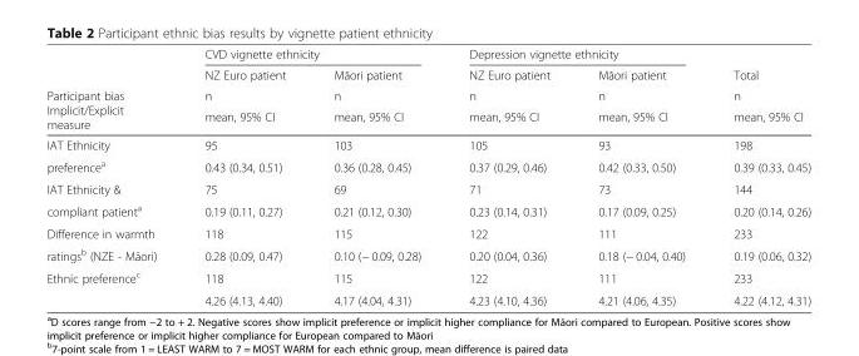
<table><thead><tr><td rowspan="4">Participant bias Implicit/Explicit measure</td><td colspan="2">CVD vignette ethnicity</td><td colspan="2">Depression vignette ethnicity</td><td rowspan="4">Total n mean, 95% CI</td></tr><tr><td rowspan="3">NZ Euro patient n mean, 95% CI</td><td rowspan="3">Māori patient n mean, 95% CI</td><td rowspan="3">NZ Euro patient n mean, 95% CI</td><td rowspan="3">Māori patient n mean, 95% CI</td></tr><tr></tr><tr></tr></thead><tbody><tr><td>IAT Ethnicity</td><td>95</td><td>103</td><td>105</td><td>93</td><td>198</td></tr><tr><td>preference<sup>a</sup></td><td>0.43 (0.34, 0.51)</td><td>0.36 (0.28, 0.45)</td><td>0.37 (0.29, 0.46)</td><td>0.42 (0.33, 0.50)</td><td>0.39 (0.33, 0.45)</td></tr><tr><td>IAT Ethnicity &amp;</td><td>75</td><td>69</td><td>71</td><td>73</td><td>144</td></tr><tr><td>compliant patient<sup>a</sup></td><td>0.19 (0.11, 0.27)</td><td>0.21 (0.12, 0.30)</td><td>0.23 (0.14, 0.31)</td><td>0.17 (0.09, 0.25)</td><td>0.20 (0.14, 0.26)</td></tr><tr><td>Difference in warmth</td><td>118</td><td>115</td><td>122</td><td>111</td><td>233</td></tr><tr><td>ratings<sup>b</sup> (NZE - Māori)</td><td>0.28 (0.09, 0.47)</td><td>0.10 (− 0.09, 0.28)</td><td>0.20 (0.04, 0.36)</td><td>0.18 (− 0.04, 0.40)</td><td>0.19 (0.06, 0.32)</td></tr><tr><td rowspan="2">Ethnic preference<sup>c</sup></td><td>118</td><td>115</td><td>122</td><td>111</td><td>233</td></tr><tr><td>4.26 (4.13, 4.40)</td><td>4.17 (4.04, 4.31)</td><td>4.23 (4.10, 4.36)</td><td>4.21 (4.06, 4.35)</td><td>4.22 (4.12, 4.31)</td></tr></tbody></table>